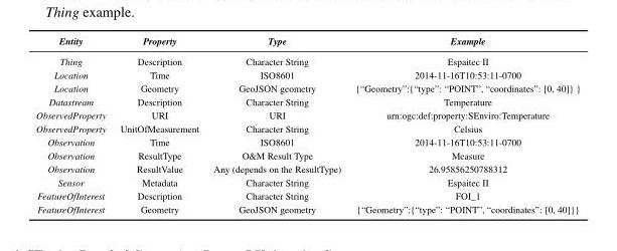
<table><thead><tr><td>Entity</td><td>Property</td><td>Type</td><td>Example</td></tr></thead><tbody><tr><td>Thing</td><td>Description</td><td>Character String</td><td>Espaitec II</td></tr><tr><td>Location</td><td>Time</td><td>ISO8601</td><td>2014-11-16T10:53:11-0700</td></tr><tr><td>Location</td><td>Geometry</td><td>GeoJSON geometry</td><td>{“Geometry”:{“type”: “POINT”, “coordinates”: [0, 40]} }</td></tr><tr><td>Datastream</td><td>Description</td><td>Character String</td><td>Temperature</td></tr><tr><td>ObservedProperty</td><td>URI</td><td>URI</td><td>urn:ogc:def:property:SEnviro:Temperature</td></tr><tr><td>ObservedProperty</td><td>UnitOfMeasurement</td><td>Character String</td><td>Celsius</td></tr><tr><td>Observation</td><td>Time</td><td>ISO8601</td><td>2014-11-16T10:53:11-0700</td></tr><tr><td>Observation</td><td>ResultType</td><td>O&amp;M Result Type</td><td>Measure</td></tr><tr><td>Observation</td><td>ResultValue</td><td>Any (depends on the ResultType)</td><td>26.95856250788312</td></tr><tr><td>Sensor</td><td>Metadata</td><td>Character String</td><td>Espaitec II</td></tr><tr><td>FeatureOfInterest</td><td>Description</td><td>Character String</td><td>FOI_1</td></tr><tr><td>FeatureOfInterest</td><td>Geometry</td><td>GeoJSON geometry</td><td>{“Geometry”:{“type”: “POINT”, “coordinates”: [0, 40]}}</td></tr></tbody></table>